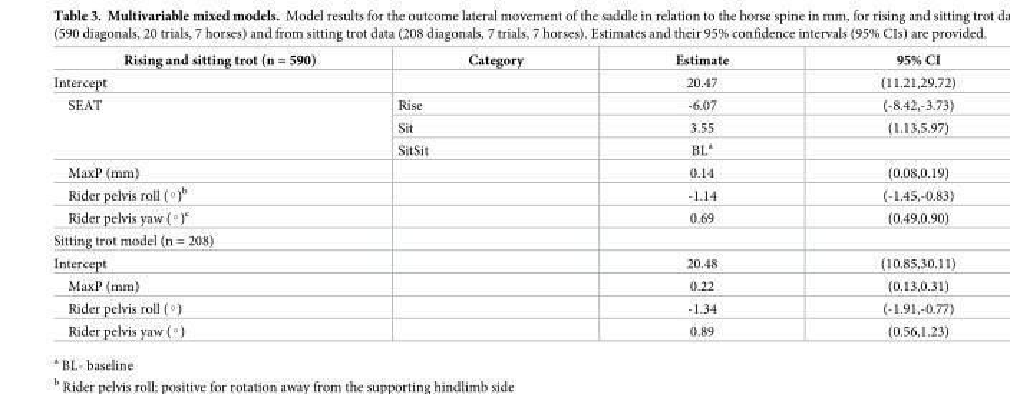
<table><thead><tr><td>Rising and sitting trot (n = 590)</td><td>Category</td><td>Estimate</td><td>95% CI</td></tr></thead><tbody><tr><td>Intercept</td><td></td><td>20.47</td><td>(11.21,29.72)</td></tr><tr><td rowspan="3">SEAT</td><td>Rise</td><td>-6.07</td><td>(-8.42,-3.73)</td></tr><tr><td>Sit</td><td>3.55</td><td>(1.13,5.97)</td></tr><tr><td>SitSit</td><td>BL<sup>a</sup></td><td></td></tr><tr><td>MaxP (mm)</td><td></td><td>0.14</td><td>(0.08,0.19)</td></tr><tr><td>Rider pelvis roll (◦)<sup>b</sup></td><td></td><td>-1.14</td><td>(-1.45,-0.83)</td></tr><tr><td>Rider pelvis yaw (◦)<sup>c</sup></td><td></td><td>0.69</td><td>(0.49,0.90)</td></tr><tr><td colspan="4">Sitting trot model (n = 208)</td></tr><tr><td>Intercept</td><td></td><td>20.48</td><td>(10.85,30.11)</td></tr><tr><td>MaxP (mm)</td><td></td><td>0.22</td><td>(0.13,0.31)</td></tr><tr><td>Rider pelvis roll (◦)</td><td></td><td>-1.34</td><td>(-1.91,-0.77)</td></tr><tr><td>Rider pelvis yaw (◦)</td><td></td><td>0.89</td><td>(0.56,1.23)</td></tr></tbody></table>